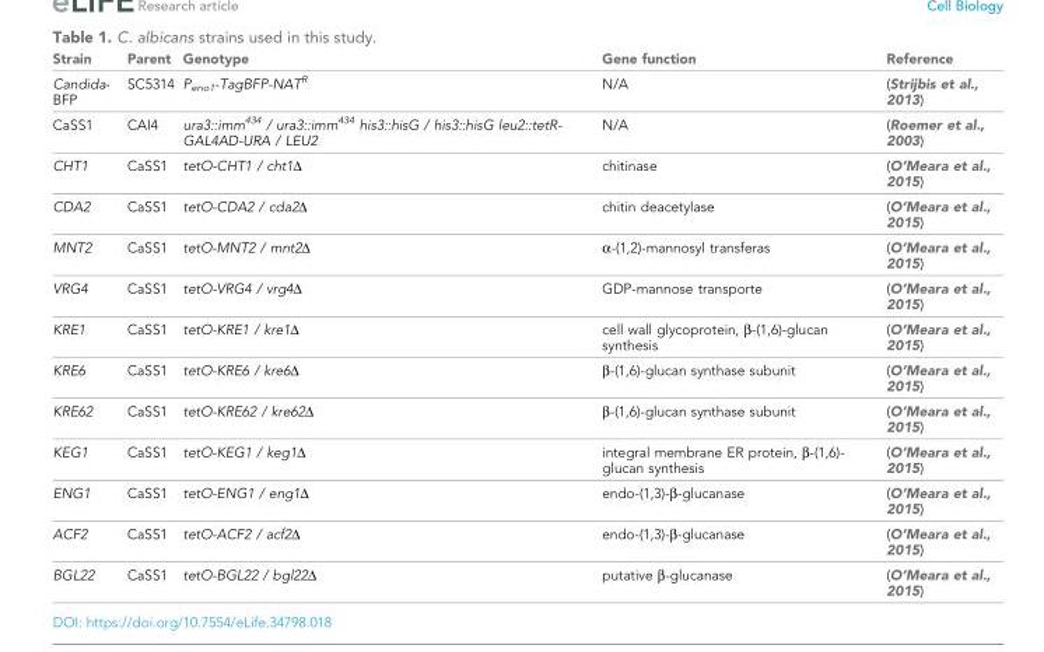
<table><thead><tr><td>Strain</td><td>Parent</td><td>Genotype</td><td>Gene function</td><td>Reference</td></tr></thead><tbody><tr><td>Candida- BFP</td><td>SC5314</td><td>P<sub>eno1</sub>-TagBFP-NAT<sup>R</sup></td><td>N/A</td><td>(Strijbis et al., 2013)</td></tr><tr><td>CaSS1</td><td>CAI4</td><td>ura3::imm<sup>434</sup> / ura3::imm<sup>434</sup> his3::hisG / his3::hisG leu2::tetR- GAL4AD-URA / LEU2</td><td>N/A</td><td>(Roemer et al., 2003)</td></tr><tr><td>CHT1</td><td>CaSS1</td><td>tetO-CHT1 / cht1∆</td><td>chitinase</td><td>(O’Meara et al., 2015)</td></tr><tr><td>CDA2</td><td>CaSS1</td><td>tetO-CDA2 / cda2∆</td><td>chitin deacetylase</td><td>(O’Meara et al., 2015)</td></tr><tr><td>MNT2</td><td>CaSS1</td><td>tetO-MNT2 / mnt2∆</td><td>α-(1,2)-mannosyl transferas</td><td>(O’Meara et al., 2015)</td></tr><tr><td>VRG4</td><td>CaSS1</td><td>tetO-VRG4 / vrg4∆</td><td>GDP-mannose transporte</td><td>(O’Meara et al., 2015)</td></tr><tr><td>KRE1</td><td>CaSS1</td><td>tetO-KRE1 / kre1∆</td><td>cell wall glycoprotein, β-(1,6)-glucan synthesis</td><td>(O’Meara et al., 2015)</td></tr><tr><td>KRE6</td><td>CaSS1</td><td>tetO-KRE6 / kre6∆</td><td>β-(1,6)-glucan synthase subunit</td><td>(O’Meara et al., 2015)</td></tr><tr><td>KRE62</td><td>CaSS1</td><td>tetO-KRE62 / kre62∆</td><td>β-(1,6)-glucan synthase subunit</td><td>(O’Meara et al., 2015)</td></tr><tr><td>KEG1</td><td>CaSS1</td><td>tetO-KEG1 / keg1∆</td><td>integral membrane ER protein, β-(1,6)- glucan synthesis</td><td>(O’Meara et al., 2015)</td></tr><tr><td>ENG1</td><td>CaSS1</td><td>tetO-ENG1 / eng1∆</td><td>endo-(1,3)-β-glucanase</td><td>(O’Meara et al., 2015)</td></tr><tr><td>ACF2</td><td>CaSS1</td><td>tetO-ACF2 / acf2∆</td><td>endo-(1,3)-β-glucanase</td><td>(O’Meara et al., 2015)</td></tr><tr><td>BGL22</td><td>CaSS1</td><td>tetO-BGL22 / bgl22∆</td><td>putative β-glucanase</td><td>(O’Meara et al., 2015)</td></tr></tbody></table>